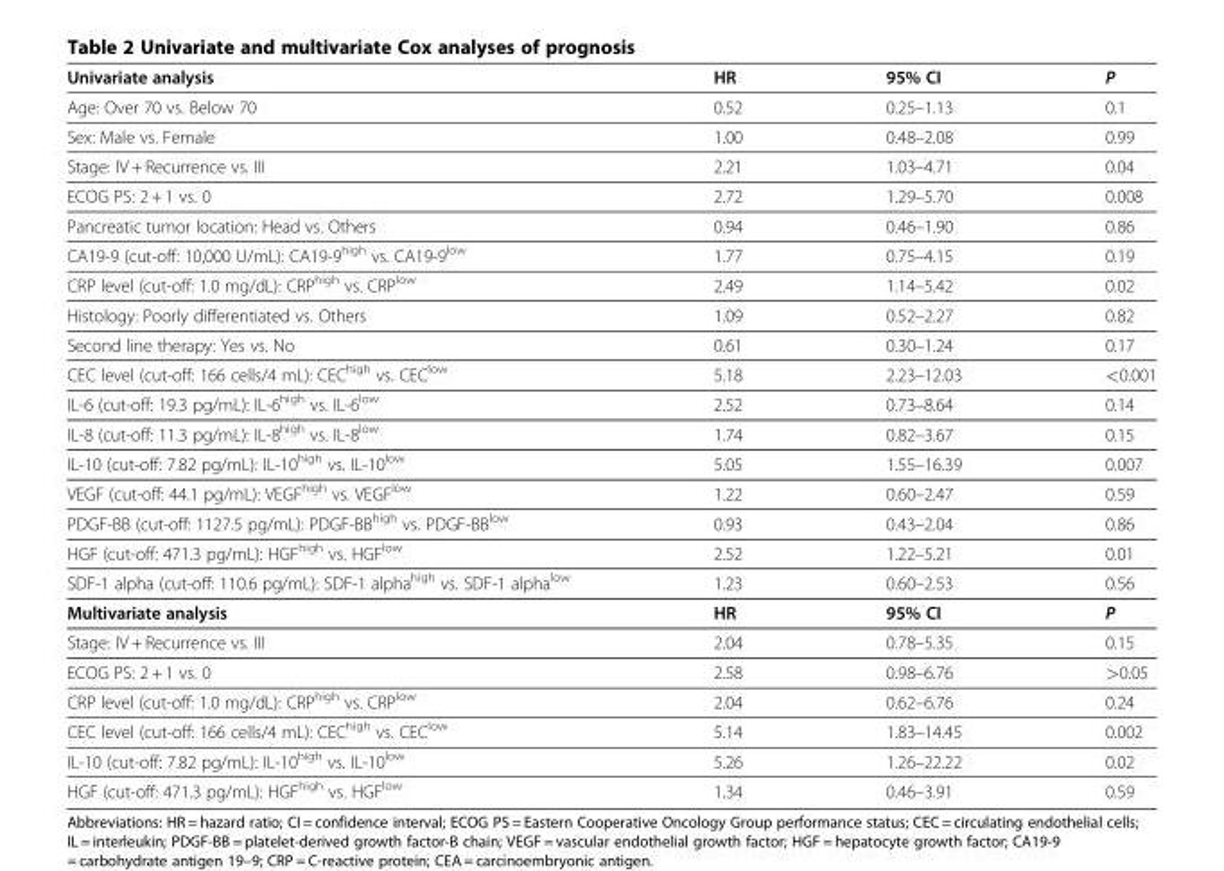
<table><thead><tr><td>Univariate analysis</td><td>HR</td><td>95% CI</td><td>P</td></tr></thead><tbody><tr><td>Age: Over 70 vs. Below 70</td><td>0.52</td><td>0.25–1.13</td><td>0.1</td></tr><tr><td>Sex: Male vs. Female</td><td>1.00</td><td>0.48–2.08</td><td>0.99</td></tr><tr><td>Stage: IV + Recurrence vs. III</td><td>2.21</td><td>1.03–4.71</td><td>0.04</td></tr><tr><td>ECOG PS: 2 + 1 vs. 0</td><td>2.72</td><td>1.29–5.70</td><td>0.008</td></tr><tr><td>Pancreatic tumor location: Head vs. Others</td><td>0.94</td><td>0.46–1.90</td><td>0.86</td></tr><tr><td>CA19-9 (cut-off: 10,000 U/mL): CA19-9<sup>high</sup> vs. CA19-9<sup>low</sup></td><td>1.77</td><td>0.75–4.15</td><td>0.19</td></tr><tr><td>CRP level (cut-off: 1.0 mg/dL): CRP<sup>high</sup> vs. CRP<sup>low</sup></td><td>2.49</td><td>1.14–5.42</td><td>0.02</td></tr><tr><td>Histology: Poorly differentiated vs. Others</td><td>1.09</td><td>0.52–2.27</td><td>0.82</td></tr><tr><td>Second line therapy: Yes vs. No</td><td>0.61</td><td>0.30–1.24</td><td>0.17</td></tr><tr><td>CEC level (cut-off: 166 cells/4 mL): CEC<sup>high</sup> vs. CEC<sup>low</sup></td><td>5.18</td><td>2.23–12.03</td><td>&lt;0.001</td></tr><tr><td>IL-6 (cut-off: 19.3 pg/mL): IL-6<sup>high</sup> vs. IL-6<sup>low</sup></td><td>2.52</td><td>0.73–8.64</td><td>0.14</td></tr><tr><td>IL-8 (cut-off: 11.3 pg/mL): IL-8<sup>high</sup> vs. IL-8<sup>low</sup></td><td>1.74</td><td>0.82–3.67</td><td>0.15</td></tr><tr><td>IL-10 (cut-off: 7.82 pg/mL): IL-10<sup>high</sup> vs. IL-10<sup>low</sup></td><td>5.05</td><td>1.55–16.39</td><td>0.007</td></tr><tr><td>VEGF (cut-off: 44.1 pg/mL): VEGF<sup>high</sup> vs. VEGF<sup>low</sup></td><td>1.22</td><td>0.60–2.47</td><td>0.59</td></tr><tr><td>PDGF-BB (cut-off: 1127.5 pg/mL): PDGF-BB<sup>high</sup> vs. PDGF-BB<sup>low</sup></td><td>0.93</td><td>0.43–2.04</td><td>0.86</td></tr><tr><td>HGF (cut-off: 471.3 pg/mL): HGF<sup>high</sup> vs. HGF<sup>low</sup></td><td>2.52</td><td>1.22–5.21</td><td>0.01</td></tr><tr><td>SDF-1 alpha (cut-off: 110.6 pg/mL): SDF-1 alpha<sup>high</sup> vs. SDF-1 alpha<sup>low</sup></td><td>1.23</td><td>0.60–2.53</td><td>0.56</td></tr><tr><td>Multivariate analysis</td><td>HR</td><td>95% CI</td><td>P</td></tr><tr><td>Stage: IV + Recurrence vs. III</td><td>2.04</td><td>0.78–5.35</td><td>0.15</td></tr><tr><td>ECOG PS: 2 + 1 vs. 0</td><td>2.58</td><td>0.98–6.76</td><td>&gt;0.05</td></tr><tr><td>CRP level (cut-off: 1.0 mg/dL): CRP<sup>high</sup> vs. CRP<sup>low</sup></td><td>2.04</td><td>0.62–6.76</td><td>0.24</td></tr><tr><td>CEC level (cut-off: 166 cells/4 mL): CEC<sup>high</sup> vs. CEC<sup>low</sup></td><td>5.14</td><td>1.83–14.45</td><td>0.002</td></tr><tr><td>IL-10 (cut-off: 7.82 pg/mL): IL-10<sup>high</sup> vs. IL-10<sup>low</sup></td><td>5.26</td><td>1.26–22.22</td><td>0.02</td></tr><tr><td>HGF (cut-off: 471.3 pg/mL): HGF<sup>high</sup> vs. HGF<sup>low</sup></td><td>1.34</td><td>0.46–3.91</td><td>0.59</td></tr></tbody></table>